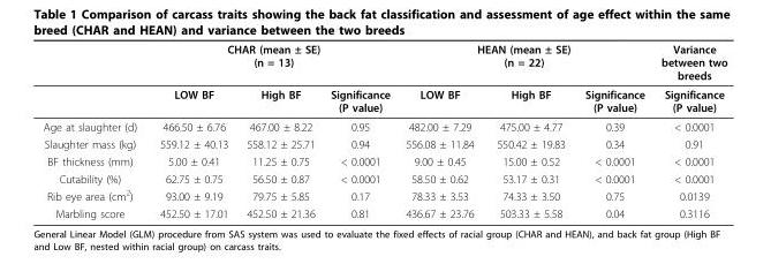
<table><thead><tr><td rowspan="2"></td><td colspan="3">CHAR (mean ± SE) (n = 13)</td><td colspan="3">HEAN (mean ± SE) (n = 22)</td><td rowspan="2">Variance between two breeds Significance (P value)</td></tr><tr><td>LOW BF</td><td>High BF</td><td>Significance (P value)</td><td>LOW BF</td><td>High BF</td><td>Significance (P value)</td></tr></thead><tbody><tr><td>Age at slaughter (d)</td><td>466.50 ± 6.76</td><td>467.00 ± 8.22</td><td>0.95</td><td>482.00 ± 7.29</td><td>475.00 ± 4.77</td><td>0.39</td><td>&lt; 0.0001</td></tr><tr><td>Slaughter mass (kg)</td><td>559.12 ± 40.13</td><td>558.12 ± 25.71</td><td>0.94</td><td>556.08 ± 11.84</td><td>550.42 ± 19.83</td><td>0.34</td><td>0.91</td></tr><tr><td>BF thickness (mm)</td><td>5.00 ± 0.41</td><td>11.25 ± 0.75</td><td>&lt; 0.0001</td><td>9.00 ± 0.45</td><td>15.00 ± 0.52</td><td>&lt; 0.0001</td><td>&lt; 0.0001</td></tr><tr><td>Cutability (%)</td><td>62.75 ± 0.75</td><td>56.50 ± 0.87</td><td>&lt; 0.0001</td><td>58.50 ± 0.62</td><td>53.17 ± 0.31</td><td>&lt; 0.0001</td><td>&lt; 0.0001</td></tr><tr><td>Rib eye area (cm<sup>2</sup>)</td><td>93.00 ± 9.19</td><td>79.75 ± 5.85</td><td>0.17</td><td>78.33 ± 3.53</td><td>74.33 ± 3.50</td><td>0.75</td><td>0.0139</td></tr><tr><td>Marbling score</td><td>452.50 ± 17.01</td><td>452.50 ± 21.36</td><td>0.81</td><td>436.67 ± 23.76</td><td>503.33 ± 5.58</td><td>0.04</td><td>0.3116</td></tr></tbody></table>